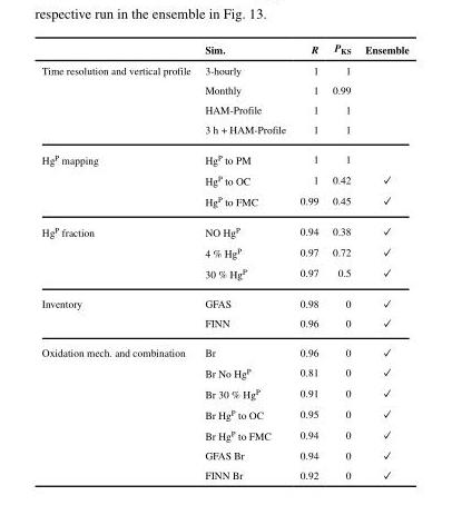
<table><thead><tr><td></td><td>Sim.</td><td>R</td><td>P<sub>KS</sub></td><td>Ensemble</td></tr></thead><tbody><tr><td rowspan="4">Time resolution and vertical profile</td><td>3-hourly</td><td>1</td><td>1</td><td></td></tr><tr><td>Monthly</td><td>1</td><td>0.99</td><td></td></tr><tr><td>HAM-Profile</td><td>1</td><td>1</td><td></td></tr><tr><td>3 h + HAM-Profile</td><td>1</td><td>1</td><td></td></tr><tr><td rowspan="3">Hg<sup>P</sup> mapping</td><td>Hg<sup>P</sup> to PM</td><td>1</td><td>1</td><td></td></tr><tr><td>Hg<sup>P</sup> to OC</td><td>1</td><td>0.42</td><td>✓</td></tr><tr><td>Hg<sup>P</sup> to FMC</td><td>0.99</td><td>0.45</td><td>✓</td></tr><tr><td rowspan="3">Hg<sup>P</sup> fraction</td><td>NO Hg<sup>P</sup></td><td>0.94</td><td>0.38</td><td>✓</td></tr><tr><td>4 % Hg<sup>P</sup></td><td>0.97</td><td>0.72</td><td>✓</td></tr><tr><td>30 % Hg<sup>P</sup></td><td>0.97</td><td>0.5</td><td>✓</td></tr><tr><td rowspan="2">Inventory</td><td>GFAS</td><td>0.98</td><td>0</td><td>✓</td></tr><tr><td>FINN</td><td>0.96</td><td>0</td><td>✓</td></tr><tr><td rowspan="7">Oxidation mech. and combination</td><td>Br</td><td>0.96</td><td>0</td><td>✓</td></tr><tr><td>Br No Hg<sup>P</sup></td><td>0.81</td><td>0</td><td>✓</td></tr><tr><td>Br 30 % Hg<sup>P</sup></td><td>0.91</td><td>0</td><td>✓</td></tr><tr><td>Br Hg<sup>P</sup> to OC</td><td>0.95</td><td>0</td><td>✓</td></tr><tr><td>Br Hg<sup>P</sup> to FMC</td><td>0.94</td><td>0</td><td>✓</td></tr><tr><td>GFAS Br</td><td>0.94</td><td>0</td><td>✓</td></tr><tr><td>FINN Br</td><td>0.92</td><td>0</td><td>✓</td></tr></tbody></table>